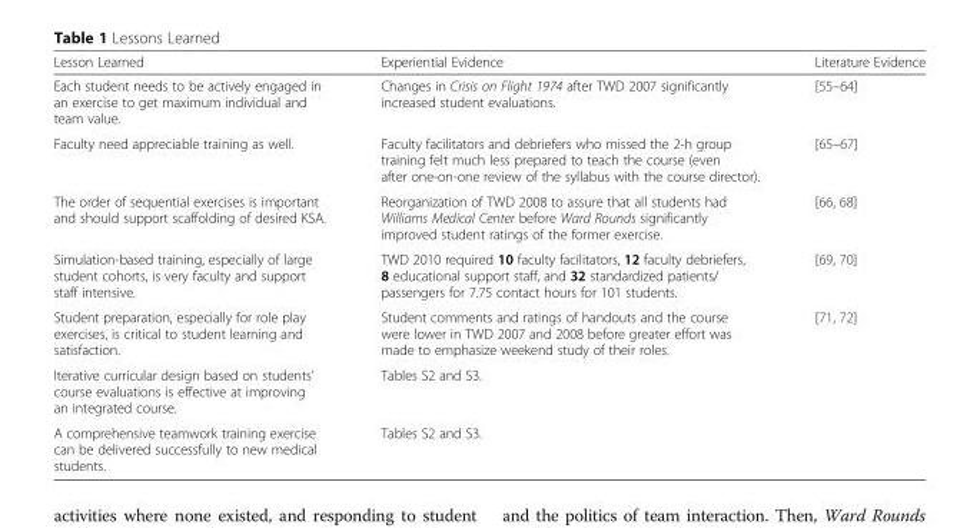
<table><thead><tr><td>Lesson Learned</td><td>Experiential Evidence</td><td>Literature Evidence</td></tr></thead><tbody><tr><td>Each student needs to be actively engaged in an exercise to get maximum individual and team value.</td><td>Changes in Crisis on Flight 1974 after TWD 2007 significantly increased student evaluations.</td><td>[55–64]</td></tr><tr><td>Faculty need appreciable training as well.</td><td>Faculty facilitators and debriefers who missed the 2-h group training felt much less prepared to teach the course (even after one-on-one review of the syllabus with the course director).</td><td>[65–67]</td></tr><tr><td>The order of sequential exercises is important and should support scaffolding of desired KSA.</td><td>Reorganization of TWD 2008 to assure that all students had Williams Medical Center before Ward Rounds significantly improved student ratings of the former exercise.</td><td>[66, 68]</td></tr><tr><td>Simulation-based training, especially of large student cohorts, is very faculty and support staff intensive.</td><td>TWD 2010 required 10 faculty facilitators, 12 faculty debriefers, 8 educational support staff, and 32 standardized patients/ passengers for 7.75 contact hours for 101 students.</td><td>[69, 70]</td></tr><tr><td>Student preparation, especially for role play exercises, is critical to student learning and satisfaction.</td><td>Student comments and ratings of handouts and the course were lower in TWD 2007 and 2008 before greater effort was made to emphasize weekend study of their roles.</td><td>[71, 72]</td></tr><tr><td>Iterative curricular design based on students’ course evaluations is effective at improving an integrated course.</td><td>Tables S2 and S3.</td><td></td></tr><tr><td>A comprehensive teamwork training exercise can be delivered successfully to new medical students.</td><td>Tables S2 and S3.</td><td></td></tr></tbody></table>